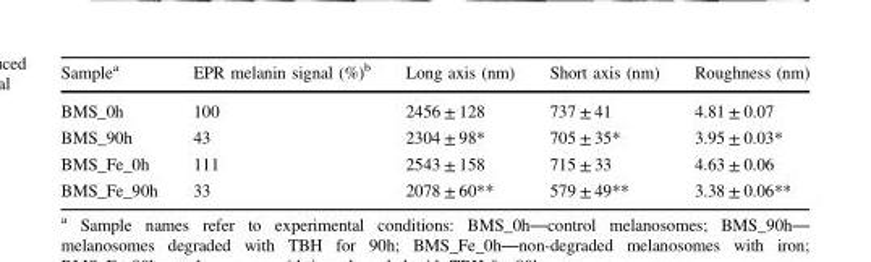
<table><thead><tr><td>Sample<sup>a</sup></td><td>EPR melanin signal (%)<sup>b</sup></td><td>Long axis (nm)</td><td>Short axis (nm)</td><td>Roughness (nm)</td></tr></thead><tbody><tr><td>BMS_0h</td><td>100</td><td>2456 ± 128</td><td>737 ± 41</td><td>4.81 ± 0.07</td></tr><tr><td>BMS_90h</td><td>43</td><td>2304 ± 98*</td><td>705 ± 35*</td><td>3.95 ± 0.03*</td></tr><tr><td>BMS_Fe_0h</td><td>111</td><td>2543 ± 158</td><td>715 ± 33</td><td>4.63 ± 0.06</td></tr><tr><td>BMS_Fe_90h</td><td>33</td><td>2078 ± 60**</td><td>579 ± 49**</td><td>3.38 ± 0.06**</td></tr></tbody></table>